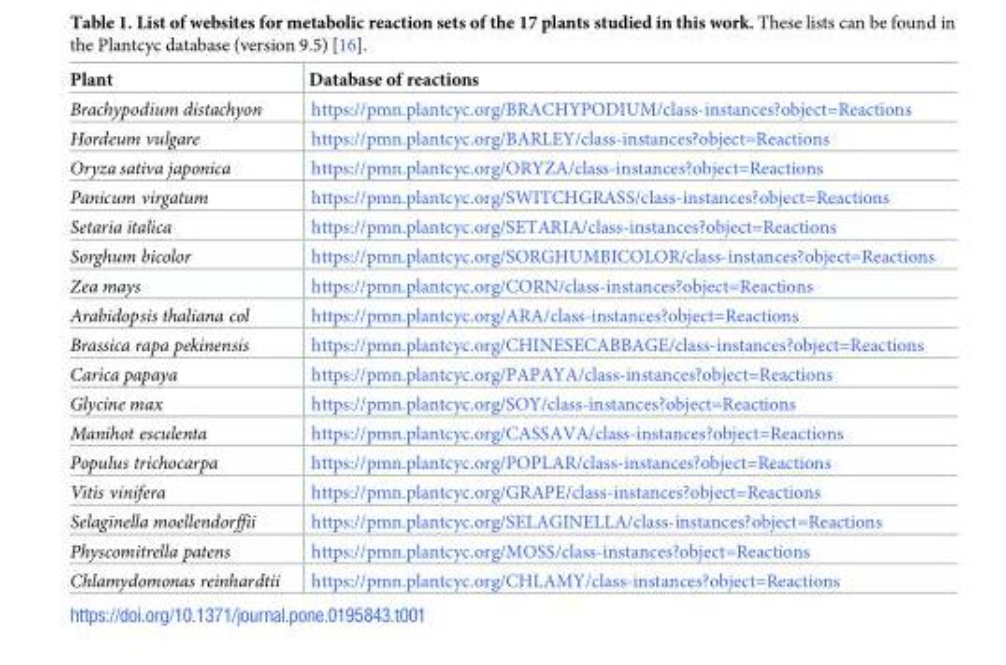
<table><thead><tr><td>Plant</td><td>Database of reactions</td></tr></thead><tbody><tr><td>Brachypodium distachyon</td><td>https://pmn.plantcyc.org/BRACHYPODIUM/class-instances?object=Reactions</td></tr><tr><td>Hordeum vulgare</td><td>https://pmn.plantcyc.org/BARLEY/class-instances?object=Reactions</td></tr><tr><td>Oryza sativa japonica</td><td>https://pmn.plantcyc.org/ORYZA/class-instances?object=Reactions</td></tr><tr><td>Panicum virgatum</td><td>https://pmn.plantcyc.org/SWITCHGRASS/class-instances?object=Reactions</td></tr><tr><td>Setaria italica</td><td>https://pmn.plantcyc.org/SETARIA/class-instances?object=Reactions</td></tr><tr><td>Sorghum bicolor</td><td>https://pmn.plantcyc.org/SORGHUMBICOLOR/class-instances?object=Reactions</td></tr><tr><td>Zea mays</td><td>https://pmn.plantcyc.org/CORN/class-instances?object=Reactions</td></tr><tr><td>Arabidopsis thaliana col</td><td>https://pmn.plantcyc.org/ARA/class-instances?object=Reactions</td></tr><tr><td>Brassica rapa pekinensis</td><td>https://pmn.plantcyc.org/CHINESECABBAGE/class-instances?object=Reactions</td></tr><tr><td>Carica papaya</td><td>https://pmn.plantcyc.org/PAPAYA/class-instances?object=Reactions</td></tr><tr><td>Glycine max</td><td>https://pmn.plantcyc.org/SOY/class-instances?object=Reactions</td></tr><tr><td>Manihot esculenta</td><td>https://pmn.plantcyc.org/CASSAVA/class-instances?object=Reactions</td></tr><tr><td>Populus trichocarpa</td><td>https://pmn.plantcyc.org/POPLAR/class-instances?object=Reactions</td></tr><tr><td>Vitis vinifera</td><td>https://pmn.plantcyc.org/GRAPE/class-instances?object=Reactions</td></tr><tr><td>Selaginella moellendorffii</td><td>https://pmn.plantcyc.org/SELAGINELLA/class-instances?object=Reactions</td></tr><tr><td>Physcomitrella patens</td><td>https://pmn.plantcyc.org/MOSS/class-instances?object=Reactions</td></tr><tr><td>Chlamydomonas reinhardtii</td><td>https://pmn.plantcyc.org/CHLAMY/class-instances?object=Reactions</td></tr></tbody></table>